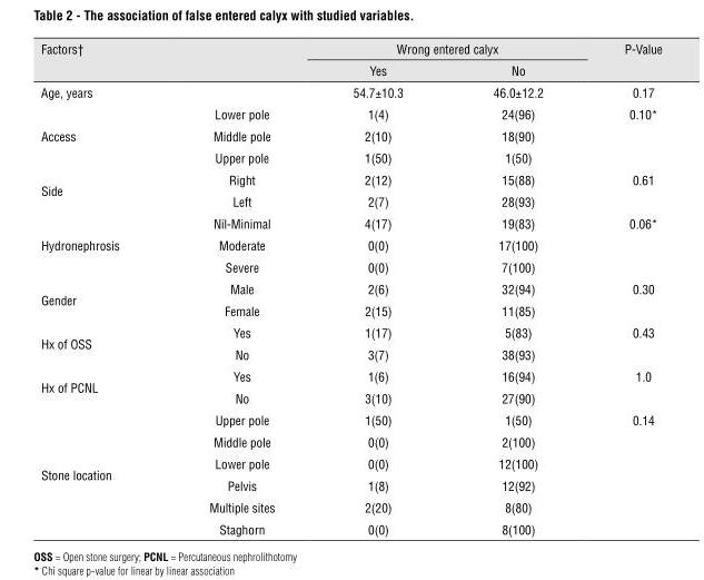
<table><thead><tr><td rowspan="2">Factors†</td><td rowspan="2"></td><td colspan="2">Wrong entered calyx</td><td rowspan="2">P-Value</td></tr><tr><td>Yes</td><td>No</td></tr></thead><tbody><tr><td>Age, years</td><td></td><td>54.7±10.3</td><td>46.0±12.2</td><td>0.17</td></tr><tr><td rowspan="3">Access</td><td>Lower pole</td><td>1(4)</td><td>24(96)</td><td>0.10*</td></tr><tr><td>Middle pole</td><td>2(10)</td><td>18(90)</td><td></td></tr><tr><td>Upper pole</td><td>1(50)</td><td>1(50)</td><td></td></tr><tr><td rowspan="2">Side</td><td>Right</td><td>2(12)</td><td>15(88)</td><td>0.61</td></tr><tr><td>Left</td><td>2(7)</td><td>28(93)</td><td></td></tr><tr><td rowspan="3">Hydronephrosis</td><td>Nil-Minimal</td><td>4(17)</td><td>19(83)</td><td>0.06*</td></tr><tr><td>Moderate</td><td>0(0)</td><td>17(100)</td><td></td></tr><tr><td>Severe</td><td>0(0)</td><td>7(100)</td><td></td></tr><tr><td rowspan="2">Gender</td><td>Male</td><td>2(6)</td><td>32(94)</td><td>0.30</td></tr><tr><td>Female</td><td>2(15)</td><td>11(85)</td><td></td></tr><tr><td rowspan="2">Hx of OSS</td><td>Yes</td><td>1(17)</td><td>5(83)</td><td>0.43</td></tr><tr><td>No</td><td>3(7)</td><td>38(93)</td><td></td></tr><tr><td rowspan="2">Hx of PCNL</td><td>Yes</td><td>1(6)</td><td>16(94)</td><td>1.0</td></tr><tr><td>No</td><td>3(10)</td><td>27(90)</td><td></td></tr><tr><td rowspan="6">Stone location</td><td>Upper pole</td><td>1(50)</td><td>1(50)</td><td>0.14</td></tr><tr><td>Middle pole</td><td>0(0)</td><td>2(100)</td><td></td></tr><tr><td>Lower pole</td><td>0(0)</td><td>12(100)</td><td></td></tr><tr><td>Pelvis</td><td>1(8)</td><td>12(92)</td><td></td></tr><tr><td>Multiple sites</td><td>2(20)</td><td>8(80)</td><td></td></tr><tr><td>Staghorn</td><td>0(0)</td><td>8(100)</td><td></td></tr></tbody></table>